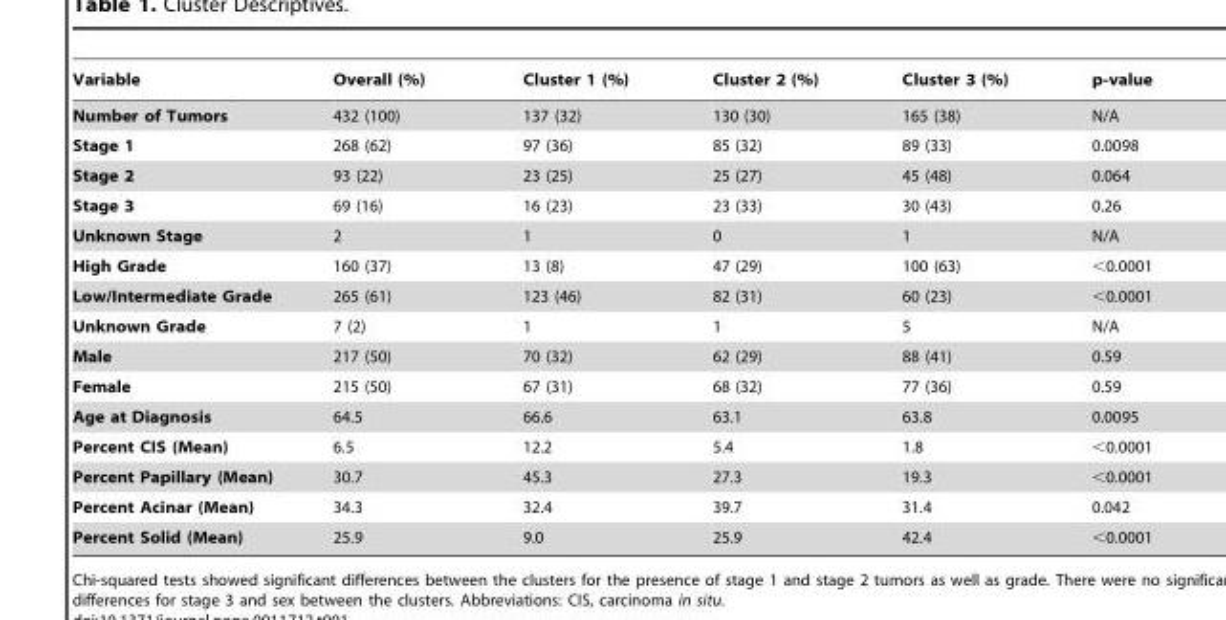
<table><thead><tr><td>Variable</td><td>Overall (%)</td><td>Cluster 1 (%)</td><td>Cluster 2 (%)</td><td>Cluster 3 (%)</td><td>p-value</td></tr></thead><tbody><tr><td>Number of Tumors</td><td>432 (100)</td><td>137 (32)</td><td>130 (30)</td><td>165 (38)</td><td>N/A</td></tr><tr><td>Stage 1</td><td>268 (62)</td><td>97 (36)</td><td>85 (32)</td><td>89 (33)</td><td>0.0098</td></tr><tr><td>Stage 2</td><td>93 (22)</td><td>23 (25)</td><td>25 (27)</td><td>45 (48)</td><td>0.064</td></tr><tr><td>Stage 3</td><td>69 (16)</td><td>16 (23)</td><td>23 (33)</td><td>30 (43)</td><td>0.26</td></tr><tr><td>Unknown Stage</td><td>2</td><td>1</td><td>0</td><td>1</td><td>N/A</td></tr><tr><td>High Grade</td><td>160 (37)</td><td>13 (8)</td><td>47 (29)</td><td>100 (63)</td><td>&lt;0.0001</td></tr><tr><td>Low/Intermediate Grade</td><td>265 (61)</td><td>123 (46)</td><td>82 (31)</td><td>60 (23)</td><td>&lt;0.0001</td></tr><tr><td>Unknown Grade</td><td>7 (2)</td><td>1</td><td>1</td><td>5</td><td>N/A</td></tr><tr><td>Male</td><td>217 (50)</td><td>70 (32)</td><td>62 (29)</td><td>88 (41)</td><td>0.59</td></tr><tr><td>Female</td><td>215 (50)</td><td>67 (31)</td><td>68 (32)</td><td>77 (36)</td><td>0.59</td></tr><tr><td>Age at Diagnosis</td><td>64.5</td><td>66.6</td><td>63.1</td><td>63.8</td><td>0.0095</td></tr><tr><td>Percent CIS (Mean)</td><td>6.5</td><td>12.2</td><td>5.4</td><td>1.8</td><td>&lt;0.0001</td></tr><tr><td>Percent Papillary (Mean)</td><td>30.7</td><td>45.3</td><td>27.3</td><td>19.3</td><td>&lt;0.0001</td></tr><tr><td>Percent Acinar (Mean)</td><td>34.3</td><td>32.4</td><td>39.7</td><td>31.4</td><td>0.042</td></tr><tr><td>Percent Solid (Mean)</td><td>25.9</td><td>9.0</td><td>25.9</td><td>42.4</td><td>&lt;0.0001</td></tr></tbody></table>